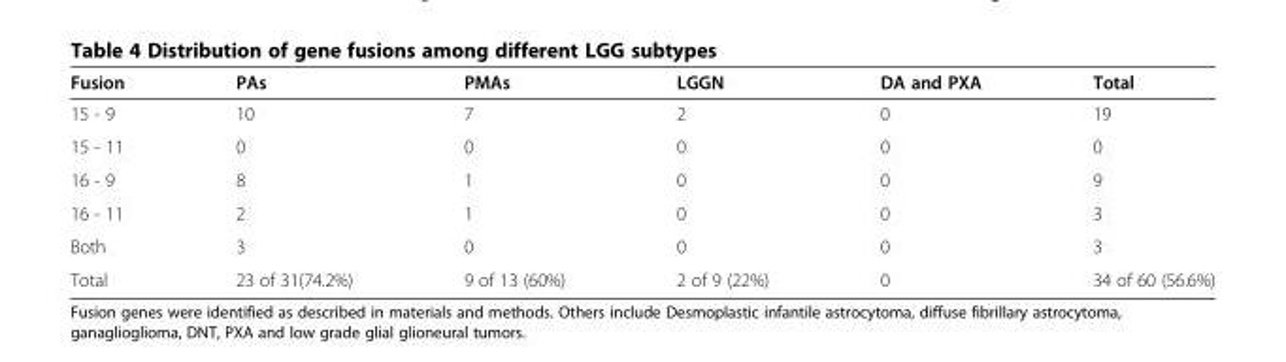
<table><thead><tr><td>Fusion</td><td>PAs</td><td>PMAs</td><td>LGGN</td><td>DA and PXA</td><td>Total</td></tr></thead><tbody><tr><td>15 - 9</td><td>10</td><td>7</td><td>2</td><td>0</td><td>19</td></tr><tr><td>15 - 11</td><td>0</td><td>0</td><td>0</td><td>0</td><td>0</td></tr><tr><td>16 - 9</td><td>8</td><td>1</td><td>0</td><td>0</td><td>9</td></tr><tr><td>16 - 11</td><td>2</td><td>1</td><td>0</td><td>0</td><td>3</td></tr><tr><td>Both</td><td>3</td><td>0</td><td>0</td><td>0</td><td>3</td></tr><tr><td>Total</td><td>23 of 31(74.2%)</td><td>9 of 13 (60%)</td><td>2 of 9 (22%)</td><td>0</td><td>34 of 60 (56.6%)</td></tr></tbody></table>